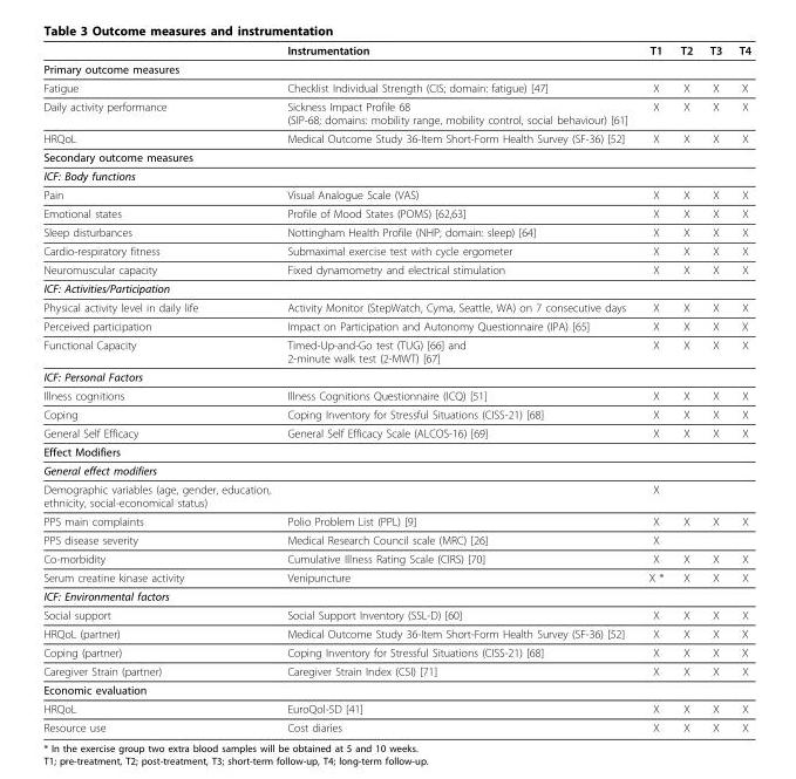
<table><thead><tr><td></td><td>Instrumentation</td><td>T1</td><td>T2</td><td>T3</td><td>T4</td></tr></thead><tbody><tr><td colspan="6">Primary outcome measures</td></tr><tr><td>Fatigue</td><td>Checklist Individual Strength (CIS; domain: fatigue) [47]</td><td>X</td><td>X</td><td>X</td><td>X</td></tr><tr><td>Daily activity performance</td><td>Sickness Impact Profile 68 (SIP-68; domains: mobility range, mobility control, social behaviour) [61]</td><td>X</td><td>X</td><td>X</td><td>X</td></tr><tr><td>HRQoL</td><td>Medical Outcome Study 36-Item Short-Form Health Survey (SF-36) [52]</td><td>X</td><td>X</td><td>X</td><td>X</td></tr><tr><td colspan="6">Secondary outcome measures</td></tr><tr><td colspan="6">ICF: Body functions</td></tr><tr><td>Pain</td><td>Visual Analogue Scale (VAS)</td><td>X</td><td>X</td><td>X</td><td>X</td></tr><tr><td>Emotional states</td><td>Profile of Mood States (POMS) [62,63]</td><td>X</td><td>X</td><td>X</td><td>X</td></tr><tr><td>Sleep disturbances</td><td>Nottingham Health Profile (NHP; domain: sleep) [64]</td><td>X</td><td>X</td><td>X</td><td>X</td></tr><tr><td>Cardio-respiratory fitness</td><td>Submaximal exercise test with cycle ergometer</td><td>X</td><td>X</td><td>X</td><td>X</td></tr><tr><td>Neuromuscular capacity</td><td>Fixed dynamometry and electrical stimulation</td><td>X</td><td>X</td><td>X</td><td>X</td></tr><tr><td colspan="6">ICF: Activities/Participation</td></tr><tr><td>Physical activity level in daily life</td><td>Activity Monitor (StepWatch, Cyma, Seattle, WA) on 7 consecutive days</td><td>X</td><td>X</td><td>X</td><td>X</td></tr><tr><td>Perceived participation</td><td>Impact on Participation and Autonomy Questionnaire (IPA) [65]</td><td>X</td><td>X</td><td>X</td><td>X</td></tr><tr><td>Functional Capacity</td><td>Timed-Up-and-Go test (TUG) [66] and 2-minute walk test (2-MWT) [67]</td><td>X</td><td>X</td><td>X</td><td>X</td></tr><tr><td colspan="6">ICF: Personal Factors</td></tr><tr><td>Illness cognitions</td><td>Illness Cognitions Questionnaire (ICQ) [51]</td><td>X</td><td>X</td><td>X</td><td>X</td></tr><tr><td>Coping</td><td>Coping Inventory for Stressful Situations (CISS-21) [68]</td><td>X</td><td>X</td><td>X</td><td>X</td></tr><tr><td>General Self Efficacy</td><td>General Self Efficacy Scale (ALCOS-16) [69]</td><td>X</td><td>X</td><td>X</td><td>X</td></tr><tr><td colspan="6">Effect Modifiers</td></tr><tr><td colspan="6">General effect modifiers</td></tr><tr><td>Demographic variables (age, gender, education, ethnicity, social-economical status)</td><td></td><td>X</td><td></td><td></td><td></td></tr><tr><td>PPS main complaints</td><td>Polio Problem List (PPL) [9]</td><td>X</td><td>X</td><td>X</td><td>X</td></tr><tr><td>PPS disease severity</td><td>Medical Research Council scale (MRC) [26]</td><td>X</td><td></td><td></td><td></td></tr><tr><td>Co-morbidity</td><td>Cumulative Illness Rating Scale (CIRS) [70]</td><td>X</td><td>X</td><td>X</td><td>X</td></tr><tr><td>Serum creatine kinase activity</td><td>Venipuncture</td><td>X *</td><td>X</td><td>X</td><td>X</td></tr><tr><td colspan="6">ICF: Environmental factors</td></tr><tr><td>Social support</td><td>Social Support Inventory (SSL-D) [60]</td><td>X</td><td>X</td><td>X</td><td>X</td></tr><tr><td>HRQoL (partner)</td><td>Medical Outcome Study 36-Item Short-Form Health Survey (SF-36) [52]</td><td>X</td><td>X</td><td>X</td><td>X</td></tr><tr><td>Coping (partner)</td><td>Coping Inventory for Stressful Situations (CISS-21) [68]</td><td>X</td><td>X</td><td>X</td><td>X</td></tr><tr><td>Caregiver Strain (partner)</td><td>Caregiver Strain Index (CSI) [71]</td><td>X</td><td>X</td><td>X</td><td>X</td></tr><tr><td colspan="6">Economic evaluation</td></tr><tr><td>HRQoL</td><td>EuroQol-5D [41]</td><td>X</td><td>X</td><td>X</td><td>X</td></tr><tr><td>Resource use</td><td>Cost diaries</td><td>X</td><td>X</td><td>X</td><td>X</td></tr></tbody></table>